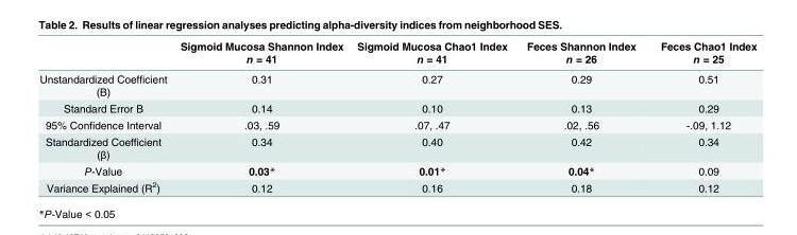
<table><thead><tr><td></td><td>Sigmoid Mucosa Shannon Index n = 41</td><td>Sigmoid Mucosa Chao1 Index n = 41</td><td>Feces Shannon Index n = 26</td><td>Feces Chao1 Index n = 25</td></tr></thead><tbody><tr><td>Unstandardized Coefficient (B)</td><td>0.31</td><td>0.27</td><td>0.29</td><td>0.51</td></tr><tr><td>Standard Error B</td><td>0.14</td><td>0.10</td><td>0.13</td><td>0.29</td></tr><tr><td>95% Confidence Interval</td><td>.03, .59</td><td>.07, .47</td><td>.02, .56</td><td>-.09, 1.12</td></tr><tr><td>Standardized Coefficient (β)</td><td>0.34</td><td>0.40</td><td>0.42</td><td>0.34</td></tr><tr><td>P-Value</td><td>0.03*</td><td>0.01*</td><td>0.04*</td><td>0.09</td></tr><tr><td>Variance Explained (R<sup>2</sup>)</td><td>0.12</td><td>0.16</td><td>0.18</td><td>0.12</td></tr></tbody></table>